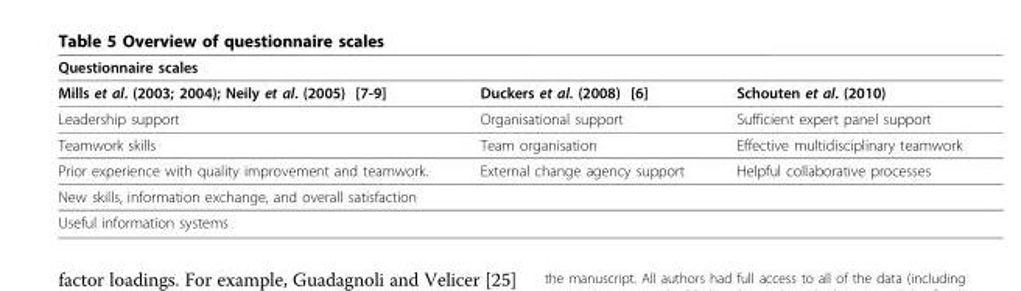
<table><thead><tr><td colspan="3">Questionnaire scales</td></tr><tr><td>Mills et al. (2003; 2004); Neily et al. (2005) [7-9]</td><td>Duckers et al. (2008) [6]</td><td>Schouten et al. (2010)</td></tr></thead><tbody><tr><td>Leadership support</td><td>Organisational support</td><td>Sufficient expert panel support</td></tr><tr><td>Teamwork skills</td><td>Team organisation</td><td>Effective multidisciplinary teamwork</td></tr><tr><td>Prior experience with quality improvement and teamwork.</td><td>External change agency support</td><td>Helpful collaborative processes</td></tr><tr><td colspan="3">New skills, information exchange, and overall satisfaction</td></tr><tr><td>Useful information systems</td><td></td><td></td></tr></tbody></table>